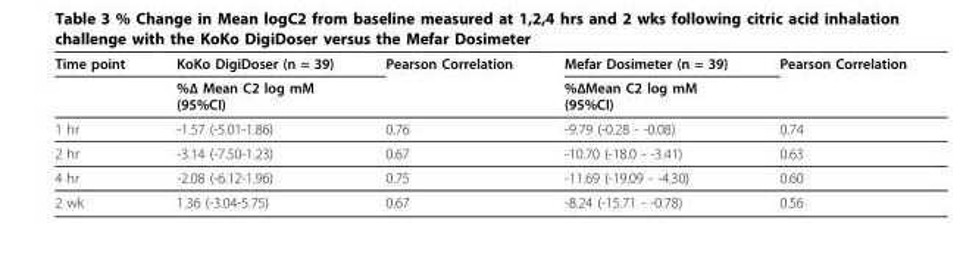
<table><thead><tr><td rowspan="2">Time point</td><td rowspan="2">KoKo DigiDoser (n = 39) %Δ Mean C2 log mM (95%CI)</td><td rowspan="2">Pearson Correlation</td><td rowspan="2">Mefar Dosimeter (n = 39) %ΔMean C2 log mM (95%CI)</td><td rowspan="2">Pearson Correlation</td></tr><tr></tr></thead><tbody><tr><td>1 hr</td><td>-1.57 (-5.01-1.86)</td><td>0.76</td><td>-9.79 (-0.28 - -0.08)</td><td>0.74</td></tr><tr><td>2 hr</td><td>-3.14 (-7.50-1.23)</td><td>0.67</td><td>-10.70 (-18.0 - -3.41)</td><td>0.63</td></tr><tr><td>4 hr</td><td>-2.08 (-6.12-1.96)</td><td>0.75</td><td>-11.69 (-19.09 - -4.30)</td><td>0.60</td></tr><tr><td>2 wk</td><td>1.36 (-3.04-5.75)</td><td>0.67</td><td>-8.24 (-15.71 - -0.78)</td><td>0.56</td></tr></tbody></table>